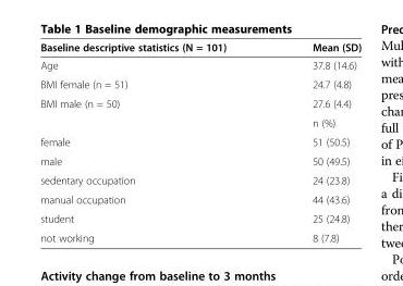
<table><thead><tr><td>Baseline descriptive statistics (N = 101)</td><td>Mean (SD)</td></tr></thead><tbody><tr><td>Age</td><td>37.8 (14.6)</td></tr><tr><td>BMI female (n = 51)</td><td>24.7 (4.8)</td></tr><tr><td rowspan="2">BMI male (n = 50)</td><td>27.6 (4.4)</td></tr><tr><td>n (%)</td></tr><tr><td>female</td><td>51 (50.5)</td></tr><tr><td>male</td><td>50 (49.5)</td></tr><tr><td>sedentary occupation</td><td>24 (23.8)</td></tr><tr><td>manual occupation</td><td>44 (43.6)</td></tr><tr><td>student</td><td>25 (24.8)</td></tr><tr><td>not working</td><td>8 (7.8)</td></tr></tbody></table>